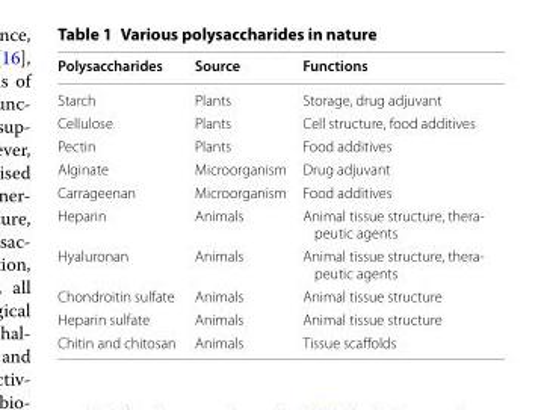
<table><thead><tr><td>Polysaccharides</td><td>Source</td><td>Functions</td></tr></thead><tbody><tr><td>Starch</td><td>Plants</td><td>Storage, drug adjuvant</td></tr><tr><td>Cellulose</td><td>Plants</td><td>Cell structure, food additives</td></tr><tr><td>Pectin</td><td>Plants</td><td>Food additives</td></tr><tr><td>Alginate</td><td>Microorganism</td><td>Drug adjuvant</td></tr><tr><td>Carrageenan</td><td>Microorganism</td><td>Food additives</td></tr><tr><td>Heparin</td><td>Animals</td><td>Animal tissue structure, thera- peutic agents</td></tr><tr><td>Hyaluronan</td><td>Animals</td><td>Animal tissue structure, thera- peutic agents</td></tr><tr><td>Chondroitin sulfate</td><td>Animals</td><td>Animal tissue structure</td></tr><tr><td>Heparin sulfate</td><td>Animals</td><td>Animal tissue structure</td></tr><tr><td>Chitin and chitosan</td><td>Animals</td><td>Tissue scaffolds</td></tr></tbody></table>